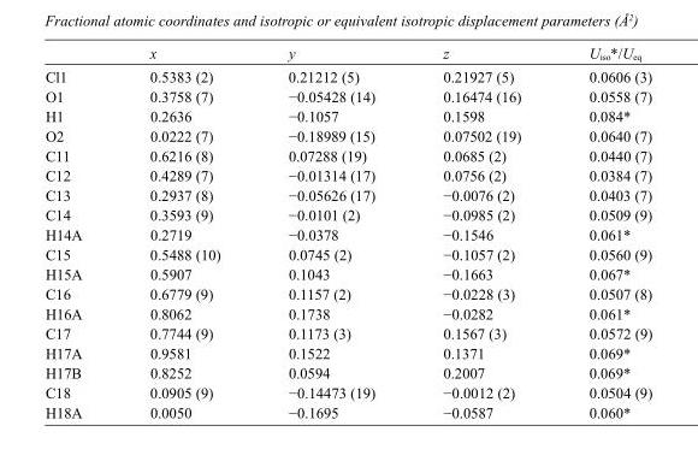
<table><thead><tr><td></td><td>x</td><td>y</td><td>z</td><td>U<sub>iso</sub>*/U<sub>eq</sub></td></tr></thead><tbody><tr><td>Cl1</td><td>0.5383 (2)</td><td>0.21212 (5)</td><td>0.21927 (5)</td><td>0.0606 (3)</td></tr><tr><td>O1</td><td>0.3758 (7)</td><td>−0.05428 (14)</td><td>0.16474 (16)</td><td>0.0558 (7)</td></tr><tr><td>H1</td><td>0.2636</td><td>−0.1057</td><td>0.1598</td><td>0.084*</td></tr><tr><td>O2</td><td>0.0222 (7)</td><td>−0.18989 (15)</td><td>0.07502 (19)</td><td>0.0640 (7)</td></tr><tr><td>C11</td><td>0.6216 (8)</td><td>0.07288 (19)</td><td>0.0685 (2)</td><td>0.0440 (7)</td></tr><tr><td>C12</td><td>0.4289 (7)</td><td>−0.01314 (17)</td><td>0.0756 (2)</td><td>0.0384 (7)</td></tr><tr><td>C13</td><td>0.2937 (8)</td><td>−0.05626 (17)</td><td>−0.0076 (2)</td><td>0.0403 (7)</td></tr><tr><td>C14</td><td>0.3593 (9)</td><td>−0.0101 (2)</td><td>−0.0985 (2)</td><td>0.0509 (9)</td></tr><tr><td>H14A</td><td>0.2719</td><td>−0.0378</td><td>−0.1546</td><td>0.061*</td></tr><tr><td>C15</td><td>0.5488 (10)</td><td>0.0745 (2)</td><td>−0.1057 (2)</td><td>0.0560 (9)</td></tr><tr><td>H15A</td><td>0.5907</td><td>0.1043</td><td>−0.1663</td><td>0.067*</td></tr><tr><td>C16</td><td>0.6779 (9)</td><td>0.1157 (2)</td><td>−0.0228 (3)</td><td>0.0507 (8)</td></tr><tr><td>H16A</td><td>0.8062</td><td>0.1738</td><td>−0.0282</td><td>0.061*</td></tr><tr><td>C17</td><td>0.7744 (9)</td><td>0.1173 (3)</td><td>0.1567 (3)</td><td>0.0572 (9)</td></tr><tr><td>H17A</td><td>0.9581</td><td>0.1522</td><td>0.1371</td><td>0.069*</td></tr><tr><td>H17B</td><td>0.8252</td><td>0.0594</td><td>0.2007</td><td>0.069*</td></tr><tr><td>C18</td><td>0.0905 (9)</td><td>−0.14473 (19)</td><td>−0.0012 (2)</td><td>0.0504 (9)</td></tr><tr><td>H18A</td><td>0.0050</td><td>−0.1695</td><td>−0.0587</td><td>0.060*</td></tr></tbody></table>